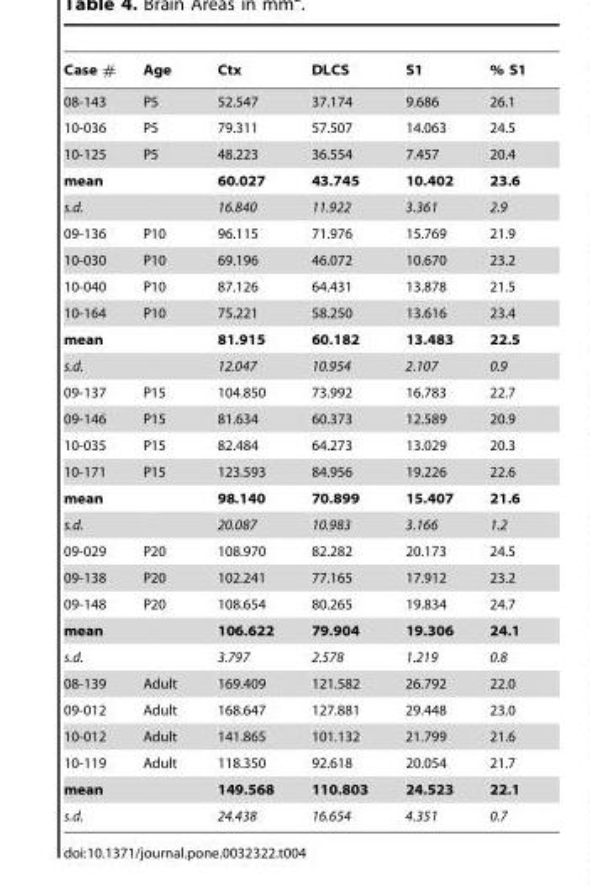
<table><thead><tr><td>Case #</td><td>Age</td><td>Ctx</td><td>DLCS</td><td>S1</td><td>% S1</td></tr></thead><tbody><tr><td>08-143</td><td>P5</td><td>52.547</td><td>37.174</td><td>9.686</td><td>26.1</td></tr><tr><td>10-036</td><td>P5</td><td>79.311</td><td>57.507</td><td>14.063</td><td>24.5</td></tr><tr><td>10-125</td><td>P5</td><td>48.223</td><td>36.554</td><td>7.457</td><td>20.4</td></tr><tr><td>mean</td><td></td><td>60.027</td><td>43.745</td><td>10.402</td><td>23.6</td></tr><tr><td>s.d.</td><td></td><td>16.840</td><td>11.922</td><td>3.361</td><td>2.9</td></tr><tr><td>09-136</td><td>P10</td><td>96.115</td><td>71.976</td><td>15.769</td><td>21.9</td></tr><tr><td>10-030</td><td>P10</td><td>69.196</td><td>46.072</td><td>10.670</td><td>23.2</td></tr><tr><td>10-040</td><td>P10</td><td>87.126</td><td>64.431</td><td>13.878</td><td>21.5</td></tr><tr><td>10-164</td><td>P10</td><td>75.221</td><td>58.250</td><td>13.616</td><td>23.4</td></tr><tr><td>mean</td><td></td><td>81.915</td><td>60.182</td><td>13.483</td><td>22.5</td></tr><tr><td>s.d.</td><td></td><td>12.047</td><td>10.954</td><td>2.107</td><td>0.9</td></tr><tr><td>09-137</td><td>P15</td><td>104.850</td><td>73.992</td><td>16.783</td><td>22.7</td></tr><tr><td>09-146</td><td>P15</td><td>81.634</td><td>60.373</td><td>12.589</td><td>20.9</td></tr><tr><td>10-035</td><td>P15</td><td>82.484</td><td>64.273</td><td>13.029</td><td>20.3</td></tr><tr><td>10-171</td><td>P15</td><td>123.593</td><td>84.956</td><td>19.226</td><td>22.6</td></tr><tr><td>mean</td><td></td><td>98.140</td><td>70.899</td><td>15.407</td><td>21.6</td></tr><tr><td>s.d.</td><td></td><td>20.087</td><td>10.983</td><td>3.166</td><td>1.2</td></tr><tr><td>09-029</td><td>P20</td><td>108.970</td><td>82.282</td><td>20.173</td><td>24.5</td></tr><tr><td>09-138</td><td>P20</td><td>102.241</td><td>77.165</td><td>17.912</td><td>23.2</td></tr><tr><td>09-148</td><td>P20</td><td>108.654</td><td>80.265</td><td>19.834</td><td>24.7</td></tr><tr><td>mean</td><td></td><td>106.622</td><td>79.904</td><td>19.306</td><td>24.1</td></tr><tr><td>s.d.</td><td></td><td>3.797</td><td>2.578</td><td>1.219</td><td>0.8</td></tr><tr><td>08-139</td><td>Adult</td><td>169.409</td><td>121.582</td><td>26.792</td><td>22.0</td></tr><tr><td>09-012</td><td>Adult</td><td>168.647</td><td>127.881</td><td>29.448</td><td>23.0</td></tr><tr><td>10-012</td><td>Adult</td><td>141.865</td><td>101.132</td><td>21.799</td><td>21.6</td></tr><tr><td>10-119</td><td>Adult</td><td>118.350</td><td>92.618</td><td>20.054</td><td>21.7</td></tr><tr><td>mean</td><td></td><td>149.568</td><td>110.803</td><td>24.523</td><td>22.1</td></tr><tr><td>s.d.</td><td></td><td>24.438</td><td>16.654</td><td>4.351</td><td>0.7</td></tr></tbody></table>